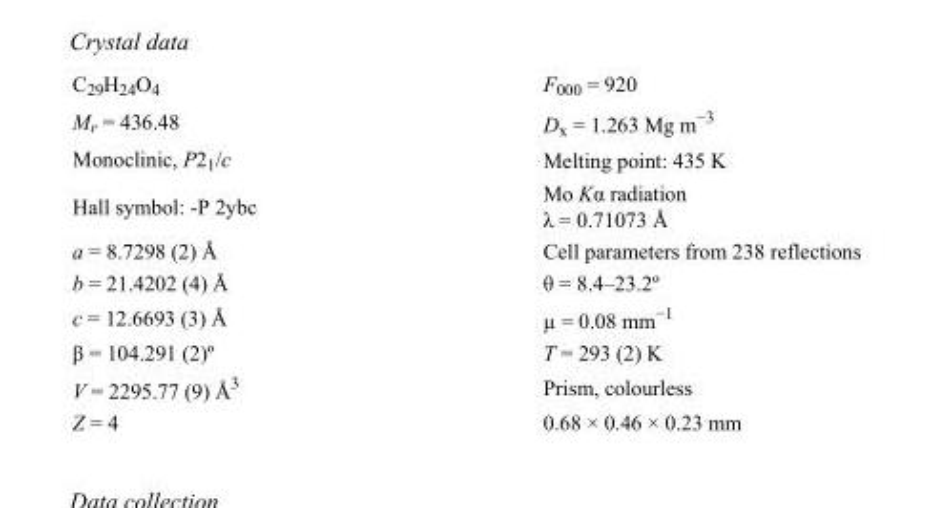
<table><tbody><tr><td>C<sub>29</sub>H<sub>24</sub>O<sub>4</sub></td><td>F<sub>000</sub> = 920</td></tr><tr><td>M<sub>r</sub> = 436.48</td><td>D<sub>x</sub> = 1.263 Mg m<sup>−3</sup></td></tr><tr><td>Monoclinic, P2<sub>1</sub>/c</td><td>Melting point: 435 K</td></tr><tr><td>Hall symbol: -P 2ybc</td><td>Mo Kα radiation λ = 0.71073 Å</td></tr><tr><td>a = 8.7298 (2) Å</td><td>Cell parameters from 238 reflections</td></tr><tr><td>b = 21.4202 (4) Å</td><td>θ = 8.4–23.2º</td></tr><tr><td>c = 12.6693 (3) Å</td><td>µ = 0.08 mm<sup>−1</sup></td></tr><tr><td>β = 104.291 (2)º</td><td>T = 293 (2) K</td></tr><tr><td>V = 2295.77 (9) Å<sup>3</sup></td><td>Prism, colourless</td></tr><tr><td>Z = 4</td><td>0.68 × 0.46 × 0.23 mm</td></tr></tbody></table>